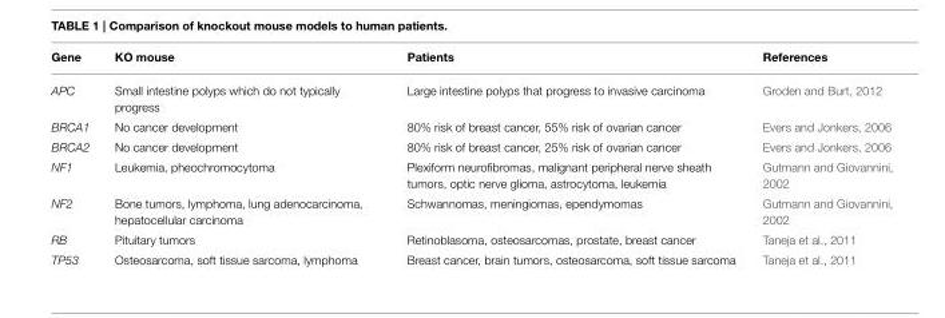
<table><thead><tr><td>Gene</td><td>KO mouse</td><td>Patients</td><td>References</td></tr></thead><tbody><tr><td>APC</td><td>Small intestine polyps which do not typically progress</td><td>Large intestine polyps that progress to invasive carcinoma</td><td>Groden and Burt, 2012</td></tr><tr><td>BRCA1</td><td>No cancer development</td><td>80% risk of breast cancer, 55% risk of ovarian cancer</td><td>Evers and Jonkers, 2006</td></tr><tr><td>BRCA2</td><td>No cancer development</td><td>80% risk of breast cancer, 25% risk of ovarian cancer</td><td>Evers and Jonkers, 2006</td></tr><tr><td>NF1</td><td>Leukemia, pheochromocytoma</td><td>Plexiform neurofibromas, malignant peripheral nerve sheath tumors, optic nerve glioma, astrocytoma, leukemia</td><td>Gutmann and Giovannini, 2002</td></tr><tr><td>NF2</td><td>Bone tumors, lymphoma, lung adenocarcinoma, hepatocellular carcinoma</td><td>Schwannomas, meningiomas, ependymomas</td><td>Gutmann and Giovannini, 2002</td></tr><tr><td>RB</td><td>Pituitary tumors</td><td>Retinoblasoma, osteosarcomas, prostate, breast cancer</td><td>Taneja et al., 2011</td></tr><tr><td>TP53</td><td>Osteosarcoma, soft tissue sarcoma, lymphoma</td><td>Breast cancer, brain tumors, osteosarcoma, soft tissue sarcoma</td><td>Taneja et al., 2011</td></tr></tbody></table>